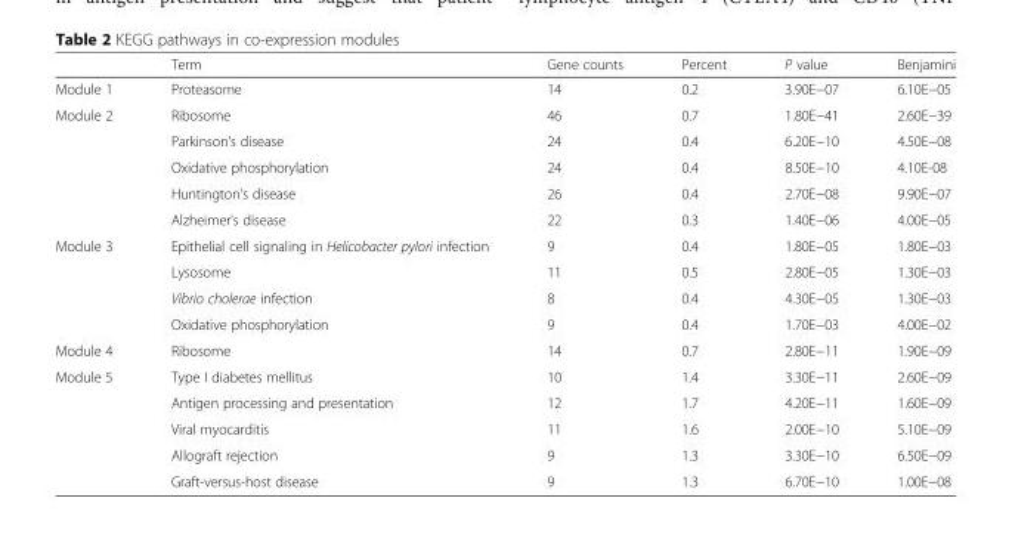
<table><thead><tr><td></td><td>Term</td><td>Gene counts</td><td>Percent</td><td>P value</td><td>Benjamini</td></tr></thead><tbody><tr><td>Module 1</td><td>Proteasome</td><td>14</td><td>0.2</td><td>3.90E−07</td><td>6.10E−05</td></tr><tr><td rowspan="5">Module 2</td><td>Ribosome</td><td>46</td><td>0.7</td><td>1.80E−41</td><td>2.60E−39</td></tr><tr><td>Parkinson’s disease</td><td>24</td><td>0.4</td><td>6.20E−10</td><td>4.50E−08</td></tr><tr><td>Oxidative phosphorylation</td><td>24</td><td>0.4</td><td>8.50E−10</td><td>4.10E-08</td></tr><tr><td>Huntington’s disease</td><td>26</td><td>0.4</td><td>2.70E−08</td><td>9.90E−07</td></tr><tr><td>Alzheimer’s disease</td><td>22</td><td>0.3</td><td>1.40E−06</td><td>4.00E−05</td></tr><tr><td rowspan="4">Module 3</td><td>Epithelial cell signaling in Helicobacter pylori infection</td><td>9</td><td>0.4</td><td>1.80E−05</td><td>1.80E−03</td></tr><tr><td>Lysosome</td><td>11</td><td>0.5</td><td>2.80E−05</td><td>1.30E−03</td></tr><tr><td>Vibrio cholerae infection</td><td>8</td><td>0.4</td><td>4.30E−05</td><td>1.30E−03</td></tr><tr><td>Oxidative phosphorylation</td><td>9</td><td>0.4</td><td>1.70E−03</td><td>4.00E−02</td></tr><tr><td>Module 4</td><td>Ribosome</td><td>14</td><td>0.7</td><td>2.80E−11</td><td>1.90E−09</td></tr><tr><td rowspan="5">Module 5</td><td>Type I diabetes mellitus</td><td>10</td><td>1.4</td><td>3.30E−11</td><td>2.60E−09</td></tr><tr><td>Antigen processing and presentation</td><td>12</td><td>1.7</td><td>4.20E−11</td><td>1.60E−09</td></tr><tr><td>Viral myocarditis</td><td>11</td><td>1.6</td><td>2.00E−10</td><td>5.10E−09</td></tr><tr><td>Allograft rejection</td><td>9</td><td>1.3</td><td>3.30E−10</td><td>6.50E−09</td></tr><tr><td>Graft-versus-host disease</td><td>9</td><td>1.3</td><td>6.70E−10</td><td>1.00E−08</td></tr></tbody></table>